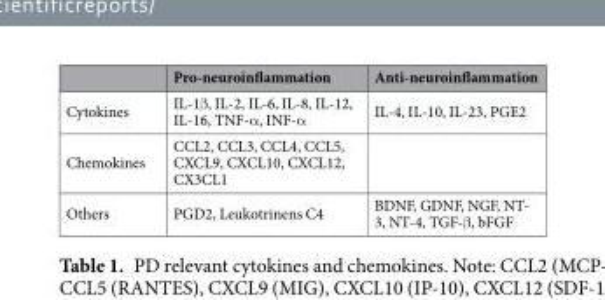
<table><thead><tr><td></td><td>Pro-neuroinflammation</td><td>Anti-neuroinflammation</td></tr></thead><tbody><tr><td>Cytokines</td><td>IL-1β, IL-2, IL-6, IL-8, IL-12, IL-16, TNF-α, INF-α</td><td>IL-4, IL-10, IL-23, PGE2</td></tr><tr><td>Chemokines</td><td>CCL2, CCL3, CCL4, CCL5, CXCL9, CXCL10, CXCL12, CX3CL1</td><td></td></tr><tr><td>Others</td><td>PGD2, Leukotrinens C4</td><td>BDNF, GDNF, NGF, NT- 3, NT-4, TGF-β, bFGF</td></tr></tbody></table>